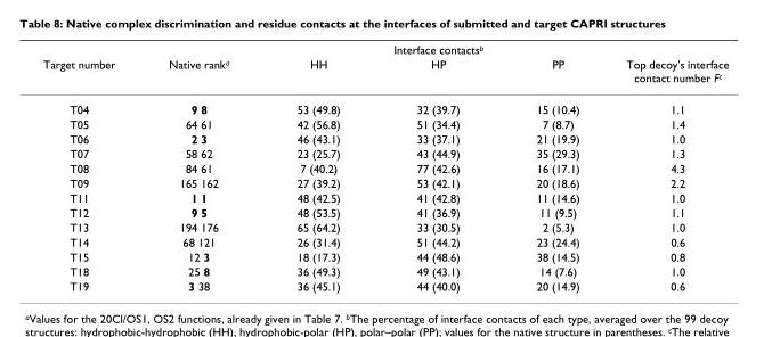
<table><thead><tr><td rowspan="2">Target number</td><td rowspan="2">Native rank<sup>a</sup></td><td colspan="3">Interface contacts<sup>b</sup></td><td rowspan="2">Top decoy&#x27;s interface contact number F<sup>c</sup></td></tr><tr><td>HH</td><td>HP</td><td>PP</td></tr></thead><tbody><tr><td>T04</td><td>9 8</td><td>53 (49.8)</td><td>32 (39.7)</td><td>15 (10.4)</td><td>1.1</td></tr><tr><td>T05</td><td>64 61</td><td>42 (56.8)</td><td>51 (34.4)</td><td>7 (8.7)</td><td>1.4</td></tr><tr><td>T06</td><td>2 3</td><td>46 (43.1)</td><td>33 (37.1)</td><td>21 (19.9)</td><td>1.0</td></tr><tr><td>T07</td><td>58 62</td><td>23 (25.7)</td><td>43 (44.9)</td><td>35 (29.3)</td><td>1.3</td></tr><tr><td>T08</td><td>84 61</td><td>7 (40.2)</td><td>77 (42.6)</td><td>16 (17.1)</td><td>4.3</td></tr><tr><td>T09</td><td>165 162</td><td>27 (39.2)</td><td>53 (42.1)</td><td>20 (18.6)</td><td>2.2</td></tr><tr><td>T11</td><td>1 1</td><td>48 (42.5)</td><td>41 (42.8)</td><td>11 (14.6)</td><td>1.0</td></tr><tr><td>T12</td><td>9 5</td><td>48 (53.5)</td><td>41 (36.9)</td><td>11 (9.5)</td><td>1.1</td></tr><tr><td>T13</td><td>194 176</td><td>65 (64.2)</td><td>33 (30.5)</td><td>2 (5.3)</td><td>1.0</td></tr><tr><td>T14</td><td>68 121</td><td>26 (31.4)</td><td>51 (44.2)</td><td>23 (24.4)</td><td>0.6</td></tr><tr><td>T15</td><td>12 3</td><td>18 (17.3)</td><td>44 (48.6)</td><td>38 (14.5)</td><td>0.8</td></tr><tr><td>T18</td><td>25 8</td><td>36 (49.3)</td><td>49 (43.1)</td><td>14 (7.6)</td><td>1.0</td></tr><tr><td>T19</td><td>3 38</td><td>36 (45.1)</td><td>44 (40.0)</td><td>20 (14.9)</td><td>0.6</td></tr></tbody></table>